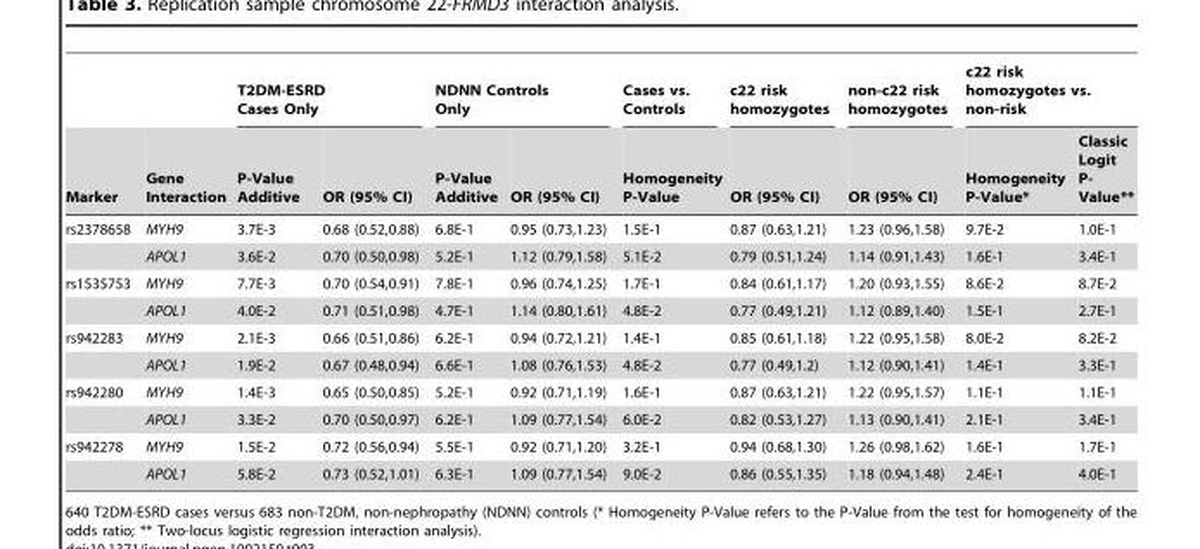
<table><thead><tr><td rowspan="2">Marker</td><td rowspan="2">Gene Interaction</td><td colspan="2">T2DM-ESRD Cases Only</td><td colspan="2">NDNN Controls Only</td><td rowspan="2">Cases vs. Controls Homogeneity P-Value</td><td rowspan="2">c22 risk homozygotes OR (95% CI)</td><td rowspan="2">non-c22 risk homozygotes OR (95% CI)</td><td colspan="2">c22 risk homozygotes vs. non-risk</td></tr><tr><td>P-Value Additive</td><td>OR (95% CI)</td><td>P-Value Additive</td><td>OR (95% CI)</td><td>Homogeneity P-Value*</td><td>Classic Logit P- Value**</td></tr></thead><tbody><tr><td rowspan="2">rs2378658</td><td>MYH9</td><td>3.7E-3</td><td>0.68 (0.52,0.88)</td><td>6.8E-1</td><td>0.95 (0.73,1.23)</td><td>1.5E-1</td><td>0.87 (0.63,1.21)</td><td>1.23 (0.96,1.58)</td><td>9.7E-2</td><td>1.0E-1</td></tr><tr><td>APOL1</td><td>3.6E-2</td><td>0.70 (0.50,0.98)</td><td>5.2E-1</td><td>1.12 (0.79,1.58)</td><td>5.1E-2</td><td>0.79 (0.51,1.24)</td><td>1.14 (0.91,1.43)</td><td>1.6E-1</td><td>3.4E-1</td></tr><tr><td rowspan="2">rs1535753</td><td>MYH9</td><td>7.7E-3</td><td>0.70 (0.54,0.91)</td><td>7.8E-1</td><td>0.96 (0.74,1.25)</td><td>1.7E-1</td><td>0.84 (0.61,1.17)</td><td>1.20 (0.93,1.55)</td><td>8.6E-2</td><td>8.7E-2</td></tr><tr><td>APOL1</td><td>4.0E-2</td><td>0.71 (0.51,0.98)</td><td>4.7E-1</td><td>1.14 (0.80,1.61)</td><td>4.8E-2</td><td>0.77 (0.49,1.21)</td><td>1.12 (0.89,1.40)</td><td>1.5E-1</td><td>2.7E-1</td></tr><tr><td rowspan="2">rs942283</td><td>MYH9</td><td>2.1E-3</td><td>0.66 (0.51,0.86)</td><td>6.2E-1</td><td>0.94 (0.72,1.21)</td><td>1.4E-1</td><td>0.85 (0.61,1.18)</td><td>1.22 (0.95,1.58)</td><td>8.0E-2</td><td>8.2E-2</td></tr><tr><td>APOL1</td><td>1.9E-2</td><td>0.67 (0.48,0.94)</td><td>6.6E-1</td><td>1.08 (0.76,1.53)</td><td>4.8E-2</td><td>0.77 (0.49,1.2)</td><td>1.12 (0.90,1.41)</td><td>1.4E-1</td><td>3.3E-1</td></tr><tr><td rowspan="2">rs942280</td><td>MYH9</td><td>1.4E-3</td><td>0.65 (0.50,0.85)</td><td>5.2E-1</td><td>0.92 (0.71,1.19)</td><td>1.6E-1</td><td>0.87 (0.63,1.21)</td><td>1.22 (0.95,1.57)</td><td>1.1E-1</td><td>1.1E-1</td></tr><tr><td>APOL1</td><td>3.3E-2</td><td>0.70 (0.50,0.97)</td><td>6.2E-1</td><td>1.09 (0.77,1.54)</td><td>6.0E-2</td><td>0.82 (0.53,1.27)</td><td>1.13 (0.90,1.41)</td><td>2.1E-1</td><td>3.4E-1</td></tr><tr><td rowspan="2">rs942278</td><td>MYH9</td><td>1.5E-2</td><td>0.72 (0.56,0.94)</td><td>5.5E-1</td><td>0.92 (0.71,1.20)</td><td>3.2E-1</td><td>0.94 (0.68,1.30)</td><td>1.26 (0.98,1.62)</td><td>1.6E-1</td><td>1.7E-1</td></tr><tr><td>APOL1</td><td>5.8E-2</td><td>0.73 (0.52,1.01)</td><td>6.3E-1</td><td>1.09 (0.77,1.54)</td><td>9.0E-2</td><td>0.86 (0.55,1.35)</td><td>1.18 (0.94,1.48)</td><td>2.4E-1</td><td>4.0E-1</td></tr></tbody></table>